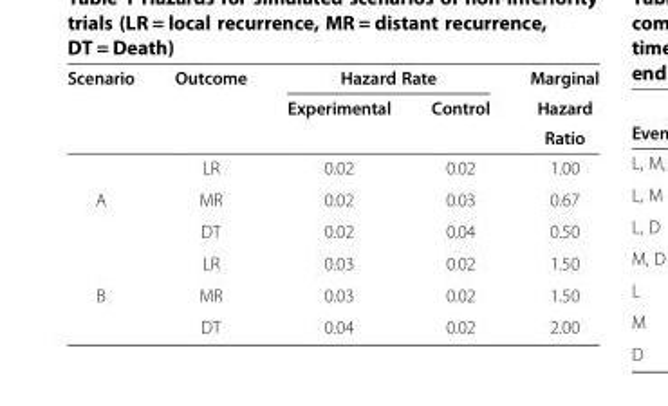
<table><thead><tr><td rowspan="3">Scenario</td><td rowspan="3">Outcome</td><td colspan="2">Hazard Rate</td><td rowspan="3">Marginal Hazard Ratio</td></tr><tr><td rowspan="2">Experimental</td><td rowspan="2">Control</td></tr><tr></tr></thead><tbody><tr><td></td><td>LR</td><td>0.02</td><td>0.02</td><td>1.00</td></tr><tr><td rowspan="3">A</td><td>MR</td><td>0.02</td><td>0.03</td><td>0.67</td></tr><tr><td>DT</td><td>0.02</td><td>0.04</td><td>0.50</td></tr><tr><td>LR</td><td>0.03</td><td>0.02</td><td>1.50</td></tr><tr><td rowspan="2">B</td><td>MR</td><td>0.03</td><td>0.02</td><td>1.50</td></tr><tr><td>DT</td><td>0.04</td><td>0.02</td><td>2.00</td></tr></tbody></table>